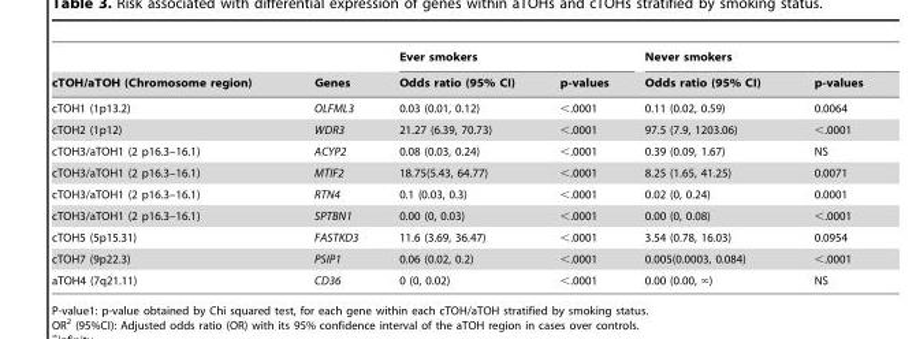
<table><thead><tr><td rowspan="2">cTOH/aTOH (Chromosome region)</td><td rowspan="2">Genes</td><td colspan="2">Ever smokers</td><td colspan="2">Never smokers</td></tr><tr><td>Odds ratio (95% CI)</td><td>p-values</td><td>Odds ratio (95% CI)</td><td>p-values</td></tr></thead><tbody><tr><td>cTOH1 (1p13.2)</td><td>OLFML3</td><td>0.03 (0.01, 0.12)</td><td>&lt;.0001</td><td>0.11 (0.02, 0.59)</td><td>0.0064</td></tr><tr><td>cTOH2 (1p12)</td><td>WDR3</td><td>21.27 (6.39, 70.73)</td><td>&lt;.0001</td><td>97.5 (7.9, 1203.06)</td><td>&lt;.0001</td></tr><tr><td>cTOH3/aTOH1 (2 p16.3–16.1)</td><td>ACYP2</td><td>0.08 (0.03, 0.24)</td><td>&lt;.0001</td><td>0.39 (0.09, 1.67)</td><td>NS</td></tr><tr><td>cTOH3/aTOH1 (2 p16.3–16.1)</td><td>MTIF2</td><td>18.75(5.43, 64.77)</td><td>&lt;.0001</td><td>8.25 (1.65, 41.25)</td><td>0.0071</td></tr><tr><td>cTOH3/aTOH1 (2 p16.3–16.1)</td><td>RTN4</td><td>0.1 (0.03, 0.3)</td><td>&lt;.0001</td><td>0.02 (0, 0.24)</td><td>0.0001</td></tr><tr><td>cTOH3/aTOH1 (2 p16.3–16.1)</td><td>SPTBN1</td><td>0.00 (0, 0.03)</td><td>&lt;.0001</td><td>0.00 (0, 0.08)</td><td>&lt;.0001</td></tr><tr><td>cTOH5 (5p15.31)</td><td>FASTKD3</td><td>11.6 (3.69, 36.47)</td><td>&lt;.0001</td><td>3.54 (0.78, 16.03)</td><td>0.0954</td></tr><tr><td>cTOH7 (9p22.3)</td><td>PSIP1</td><td>0.06 (0.02, 0.2)</td><td>&lt;.0001</td><td>0.005(0.0003, 0.084)</td><td>&lt;.0001</td></tr><tr><td>aTOH4 (7q21.11)</td><td>CD36</td><td>0 (0, 0.02)</td><td>&lt;.0001</td><td>0.00 (0.00, ‘)</td><td>NS</td></tr></tbody></table>